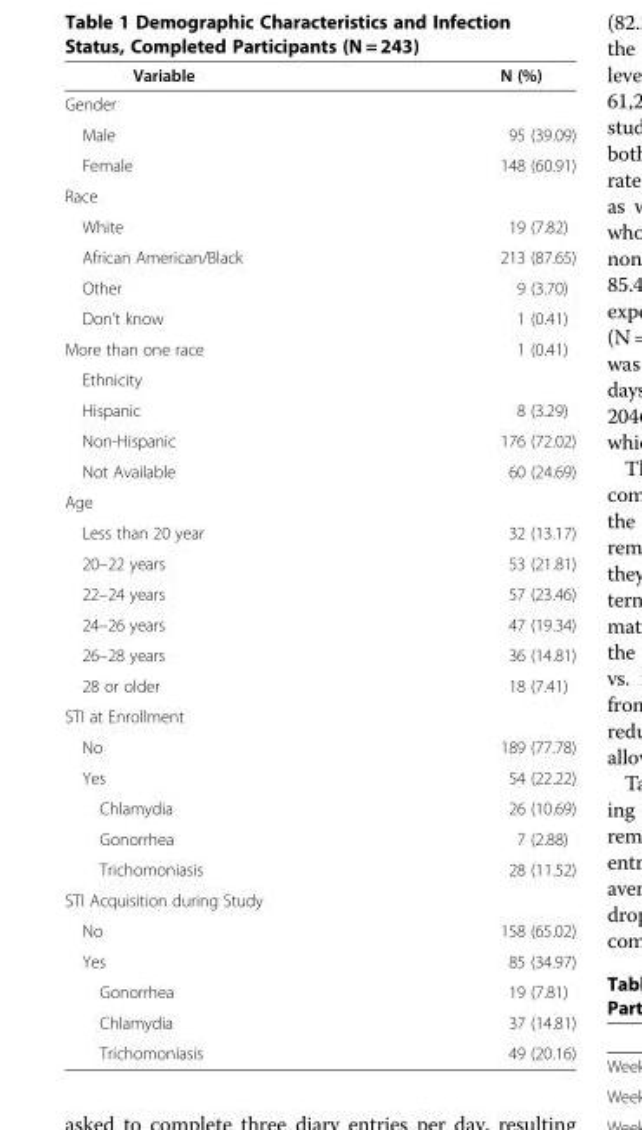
<table><thead><tr><td>Variable</td><td>N (%)</td></tr></thead><tbody><tr><td colspan="2">Gender</td></tr><tr><td>Male</td><td>95 (39.09)</td></tr><tr><td>Female</td><td>148 (60.91)</td></tr><tr><td colspan="2">Race</td></tr><tr><td>White</td><td>19 (7.82)</td></tr><tr><td>African American/Black</td><td>213 (87.65)</td></tr><tr><td>Other</td><td>9 (3.70)</td></tr><tr><td>Don’t know</td><td>1 (0.41)</td></tr><tr><td>More than one race</td><td>1 (0.41)</td></tr><tr><td colspan="2">Ethnicity</td></tr><tr><td>Hispanic</td><td>8 (3.29)</td></tr><tr><td>Non-Hispanic</td><td>176 (72.02)</td></tr><tr><td>Not Available</td><td>60 (24.69)</td></tr><tr><td colspan="2">Age</td></tr><tr><td>Less than 20 year</td><td>32 (13.17)</td></tr><tr><td>20–22 years</td><td>53 (21.81)</td></tr><tr><td>22–24 years</td><td>57 (23.46)</td></tr><tr><td>24–26 years</td><td>47 (19.34)</td></tr><tr><td>26–28 years</td><td>36 (14.81)</td></tr><tr><td>28 or older</td><td>18 (7.41)</td></tr><tr><td colspan="2">STI at Enrollment</td></tr><tr><td>No</td><td>189 (77.78)</td></tr><tr><td>Yes</td><td>54 (22.22)</td></tr><tr><td>Chlamydia</td><td>26 (10.69)</td></tr><tr><td>Gonorrhea</td><td>7 (2.88)</td></tr><tr><td>Trichomoniasis</td><td>28 (11.52)</td></tr><tr><td colspan="2">STI Acquisition during Study</td></tr><tr><td>No</td><td>158 (65.02)</td></tr><tr><td>Yes</td><td>85 (34.97)</td></tr><tr><td>Gonorrhea</td><td>19 (7.81)</td></tr><tr><td>Chlamydia</td><td>37 (14.81)</td></tr><tr><td>Trichomoniasis</td><td>49 (20.16)</td></tr></tbody></table>